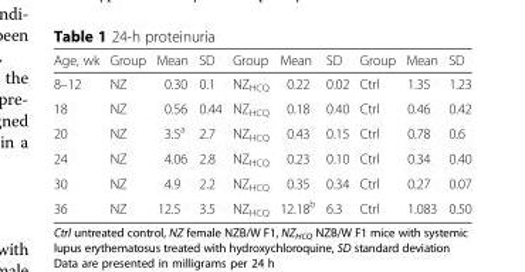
<table><thead><tr><td>Age, wk</td><td>Group</td><td>Mean</td><td>SD</td><td>Group</td><td>Mean</td><td>SD</td><td>Group</td><td>Mean</td><td>SD</td></tr></thead><tbody><tr><td>8–12</td><td>NZ</td><td>0.30</td><td>0.1</td><td>NZ<sub>HCQ</sub></td><td>0.22</td><td>0.02</td><td>Ctrl</td><td>1.35</td><td>1.23</td></tr><tr><td>18</td><td>NZ</td><td>0.56</td><td>0.44</td><td>NZ<sub>HCQ</sub></td><td>0.18</td><td>0.40</td><td>Ctrl</td><td>0.46</td><td>0.42</td></tr><tr><td>20</td><td>NZ</td><td>3.5<sup>a</sup></td><td>2.7</td><td>NZ<sub>HCQ</sub></td><td>0.43</td><td>0.15</td><td>Ctrl</td><td>0.78</td><td>0.6</td></tr><tr><td>24</td><td>NZ</td><td>4.06</td><td>2.8</td><td>NZ<sub>HCQ</sub></td><td>0.23</td><td>0.10</td><td>Ctrl</td><td>0.34</td><td>0.40</td></tr><tr><td>30</td><td>NZ</td><td>4.9</td><td>2.2</td><td>NZ<sub>HCQ</sub></td><td>0.35</td><td>0.34</td><td>Ctrl</td><td>0.27</td><td>0.07</td></tr><tr><td>36</td><td>NZ</td><td>12.5</td><td>3.5</td><td>NZ<sub>HCQ</sub></td><td>12.18<sup>b</sup></td><td>6.3</td><td>Ctrl</td><td>1.083</td><td>0.50</td></tr></tbody></table>